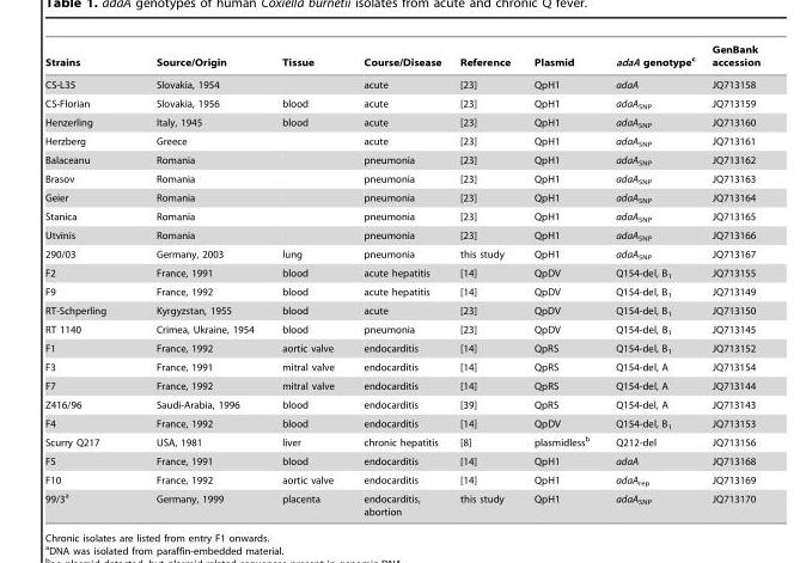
<table><thead><tr><td>Strains</td><td>Source/Origin</td><td>Tissue</td><td>Course/Disease</td><td>Reference</td><td>Plasmid</td><td>adaA genotype<sup>c</sup></td><td>GenBank accession</td></tr></thead><tbody><tr><td>CS-L35</td><td>Slovakia, 1954</td><td></td><td>acute</td><td>[23]</td><td>QpH1</td><td>adaA</td><td>JQ713158</td></tr><tr><td>CS-Florian</td><td>Slovakia, 1956</td><td>blood</td><td>acute</td><td>[23]</td><td>QpH1</td><td>adaA<sub>SNP</sub></td><td>JQ713159</td></tr><tr><td>Henzerling</td><td>Italy, 1945</td><td>blood</td><td>acute</td><td>[23]</td><td>QpH1</td><td>adaA<sub>SNP</sub></td><td>JQ713160</td></tr><tr><td>Herzberg</td><td>Greece</td><td></td><td>acute</td><td>[23]</td><td>QpH1</td><td>adaA<sub>SNP</sub></td><td>JQ713161</td></tr><tr><td>Balaceanu</td><td>Romania</td><td></td><td>pneumonia</td><td>[23]</td><td>QpH1</td><td>adaA<sub>SNP</sub></td><td>JQ713162</td></tr><tr><td>Brasov</td><td>Romania</td><td></td><td>pneumonia</td><td>[23]</td><td>QpH1</td><td>adaA<sub>SNP</sub></td><td>JQ713163</td></tr><tr><td>Geier</td><td>Romania</td><td></td><td>pneumonia</td><td>[23]</td><td>QpH1</td><td>adaA<sub>SNP</sub></td><td>JQ713164</td></tr><tr><td>Stanica</td><td>Romania</td><td></td><td>pneumonia</td><td>[23]</td><td>QpH1</td><td>adaA<sub>SNP</sub></td><td>JQ713165</td></tr><tr><td>Utvinis</td><td>Romania</td><td></td><td>pneumonia</td><td>[23]</td><td>QpH1</td><td>adaA<sub>SNP</sub></td><td>JQ713166</td></tr><tr><td>290/03</td><td>Germany, 2003</td><td>lung</td><td>pneumonia</td><td>this study</td><td>QpH1</td><td>adaA<sub>SNP</sub></td><td>JQ713167</td></tr><tr><td>F2</td><td>France, 1991</td><td>blood</td><td>acute hepatitis</td><td>[14]</td><td>QpDV</td><td>Q154-del, B<sub>1</sub></td><td>JQ713155</td></tr><tr><td>F9</td><td>France, 1992</td><td>blood</td><td>acute hepatitis</td><td>[14]</td><td>QpDV</td><td>Q154-del, B<sub>1</sub></td><td>JQ713149</td></tr><tr><td>RT-Schperling</td><td>Kyrgyzstan, 1955</td><td>blood</td><td>acute</td><td>[23]</td><td>QpDV</td><td>Q154-del, B<sub>1</sub></td><td>JQ713150</td></tr><tr><td>RT 1140</td><td>Crimea, Ukraine, 1954</td><td>blood</td><td>pneumonia</td><td>[23]</td><td>QpDV</td><td>Q154-del, B<sub>1</sub></td><td>JQ713145</td></tr><tr><td>F1</td><td>France, 1992</td><td>aortic valve</td><td>endocarditis</td><td>[14]</td><td>QpRS</td><td>Q154-del, B<sub>1</sub></td><td>JQ713152</td></tr><tr><td>F3</td><td>France, 1991</td><td>mitral valve</td><td>endocarditis</td><td>[14]</td><td>QpRS</td><td>Q154-del, A</td><td>JQ713154</td></tr><tr><td>F7</td><td>France, 1992</td><td>mitral valve</td><td>endocarditis</td><td>[14]</td><td>QpRS</td><td>Q154-del, A</td><td>JQ713144</td></tr><tr><td>Z416/96</td><td>Saudi-Arabia, 1996</td><td>blood</td><td>endocarditis</td><td>[39]</td><td>QpRS</td><td>Q154-del, A</td><td>JQ713143</td></tr><tr><td>F4</td><td>France, 1992</td><td>blood</td><td>endocarditis</td><td>[14]</td><td>QpDV</td><td>Q154-del, B<sub>1</sub></td><td>JQ713153</td></tr><tr><td>Scurry Q217</td><td>USA, 1981</td><td>liver</td><td>chronic hepatitis</td><td>[8]</td><td>plasmidless<sup>b</sup></td><td>Q212-del</td><td>JQ713156</td></tr><tr><td>F5</td><td>France, 1991</td><td>blood</td><td>endocarditis</td><td>[14]</td><td>QpH1</td><td>adaA</td><td>JQ713168</td></tr><tr><td>F10</td><td>France, 1992</td><td>aortic valve</td><td>endocarditis</td><td>[14]</td><td>QpH1</td><td>adaA<sub>rep</sub></td><td>JQ713169</td></tr><tr><td>99/3<sup>a</sup></td><td>Germany, 1999</td><td>placenta</td><td>endocarditis, abortion</td><td>this study</td><td>QpH1</td><td>adaA<sub>SNP</sub></td><td>JQ713170</td></tr></tbody></table>